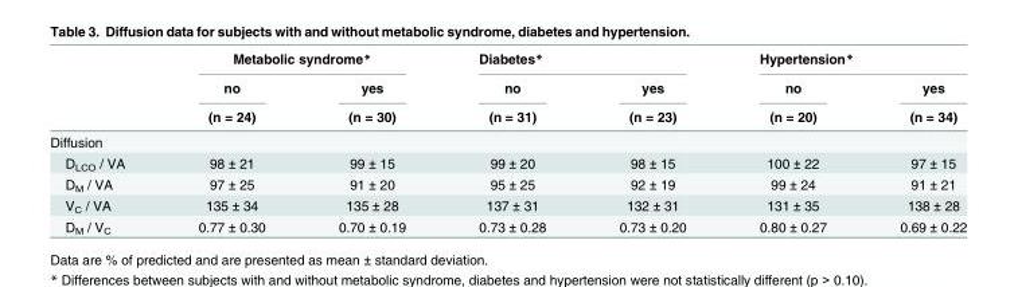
<table><thead><tr><td rowspan="3"></td><td colspan="2">Metabolic syndrome*</td><td colspan="2">Diabetes*</td><td colspan="2">Hypertension*</td></tr><tr><td rowspan="2">no (n = 24)</td><td rowspan="2">yes (n = 30)</td><td rowspan="2">no (n = 31)</td><td rowspan="2">yes (n = 23)</td><td rowspan="2">no (n = 20)</td><td rowspan="2">yes (n = 34)</td></tr><tr></tr></thead><tbody><tr><td colspan="7">Diffusion</td></tr><tr><td>D<sub>LCO</sub> / VA</td><td>98 ± 21</td><td>99 ± 15</td><td>99 ± 20</td><td>98 ± 15</td><td>100 ± 22</td><td>97 ± 15</td></tr><tr><td>D<sub>M</sub> / VA</td><td>97 ± 25</td><td>91 ± 20</td><td>95 ± 25</td><td>92 ± 19</td><td>99 ± 24</td><td>91 ± 21</td></tr><tr><td>V<sub>C</sub> / VA</td><td>135 ± 34</td><td>135 ± 28</td><td>137 ± 31</td><td>132 ± 31</td><td>131 ± 35</td><td>138 ± 28</td></tr><tr><td>D<sub>M</sub> / V<sub>C</sub></td><td>0.77 ± 0.30</td><td>0.70 ± 0.19</td><td>0.73 ± 0.28</td><td>0.73 ± 0.20</td><td>0.80 ± 0.27</td><td>0.69 ± 0.22</td></tr></tbody></table>